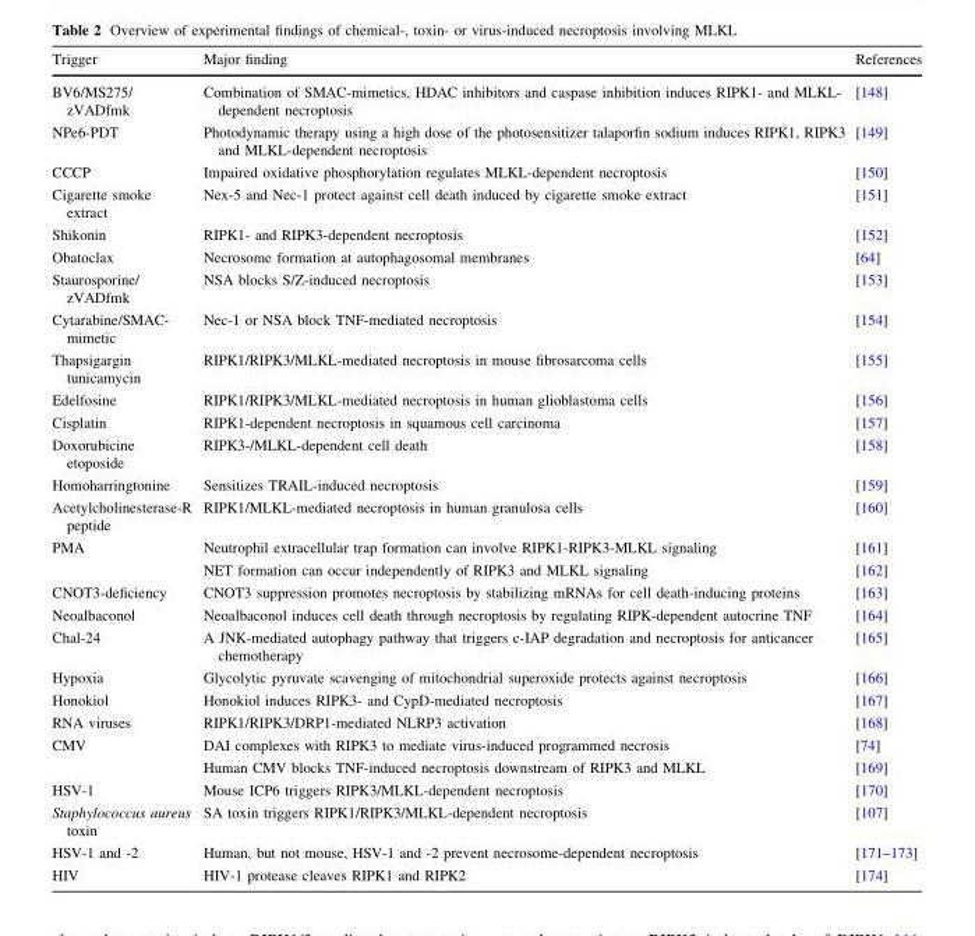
<table><thead><tr><td>Trigger</td><td>Major finding</td><td>References</td></tr></thead><tbody><tr><td>BV6/MS275/ zVADfmk</td><td>Combination of SMAC-mimetics, HDAC inhibitors and caspase inhibition induces RIPK1- and MLKL- dependent necroptosis</td><td>[148]</td></tr><tr><td>NPe6-PDT</td><td>Photodynamic therapy using a high dose of the photosensitizer talaporfin sodium induces RIPK1, RIPK3 and MLKL-dependent necroptosis</td><td>[149]</td></tr><tr><td>CCCP</td><td>Impaired oxidative phosphorylation regulates MLKL-dependent necroptosis</td><td>[150]</td></tr><tr><td>Cigarette smoke extract</td><td>Nex-5 and Nec-1 protect against cell death induced by cigarette smoke extract</td><td>[151]</td></tr><tr><td>Shikonin</td><td>RIPK1- and RIPK3-dependent necroptosis</td><td>[152]</td></tr><tr><td>Obatoclax</td><td>Necrosome formation at autophagosomal membranes</td><td>[64]</td></tr><tr><td>Staurosporine/ zVADfmk</td><td>NSA blocks S/Z-induced necroptosis</td><td>[153]</td></tr><tr><td>Cytarabine/SMAC- mimetic</td><td>Nec-1 or NSA block TNF-mediated necroptosis</td><td>[154]</td></tr><tr><td>Thapsigargin tunicamycin</td><td>RIPK1/RIPK3/MLKL-mediated necroptosis in mouse fibrosarcoma cells</td><td>[155]</td></tr><tr><td>Edelfosine</td><td>RIPK1/RIPK3/MLKL-mediated necroptosis in human glioblastoma cells</td><td>[156]</td></tr><tr><td>Cisplatin</td><td>RIPK1-dependent necroptosis in squamous cell carcinoma</td><td>[157]</td></tr><tr><td>Doxorubicine etoposide</td><td>RIPK3-/MLKL-dependent cell death</td><td>[158]</td></tr><tr><td>Homoharringtonine</td><td>Sensitizes TRAIL-induced necroptosis</td><td>[159]</td></tr><tr><td>Acetylcholinesterase-R peptide</td><td>RIPK1/MLKL-mediated necroptosis in human granulosa cells</td><td>[160]</td></tr><tr><td rowspan="2">PMA</td><td>Neutrophil extracellular trap formation can involve RIPK1-RIPK3-MLKL signaling</td><td>[161]</td></tr><tr><td>NET formation can occur independently of RIPK3 and MLKL signaling</td><td>[162]</td></tr><tr><td>CNOT3-deficiency</td><td>CNOT3 suppression promotes necroptosis by stabilizing mRNAs for cell death-inducing proteins</td><td>[163]</td></tr><tr><td>Neoalbaconol</td><td>Neoalbaconol induces cell death through necroptosis by regulating RIPK-dependent autocrine TNF</td><td>[164]</td></tr><tr><td>Chal-24</td><td>A JNK-mediated autophagy pathway that triggers c-IAP degradation and necroptosis for anticancer chemotherapy</td><td>[165]</td></tr><tr><td>Hypoxia</td><td>Glycolytic pyruvate scavenging of mitochondrial superoxide protects against necroptosis</td><td>[166]</td></tr><tr><td>Honokiol</td><td>Honokiol induces RIPK3- and CypD-mediated necroptosis</td><td>[167]</td></tr><tr><td>RNA viruses</td><td>RIPK1/RIPK3/DRP1-mediated NLRP3 activation</td><td>[168]</td></tr><tr><td rowspan="2">CMV</td><td>DAI complexes with RIPK3 to mediate virus-induced programmed necrosis</td><td>[74]</td></tr><tr><td>Human CMV blocks TNF-induced necroptosis downstream of RIPK3 and MLKL</td><td>[169]</td></tr><tr><td>HSV-1</td><td>Mouse ICP6 triggers RIPK3/MLKL-dependent necroptosis</td><td>[170]</td></tr><tr><td>Staphylococcus aureus toxin</td><td>SA toxin triggers RIPK1/RIPK3/MLKL-dependent necroptosis</td><td>[107]</td></tr><tr><td>HSV-1 and -2</td><td>Human, but not mouse, HSV-1 and -2 prevent necrosome-dependent necroptosis</td><td>[171–173]</td></tr><tr><td>HIV</td><td>HIV-1 protease cleaves RIPK1 and RIPK2</td><td>[174]</td></tr></tbody></table>